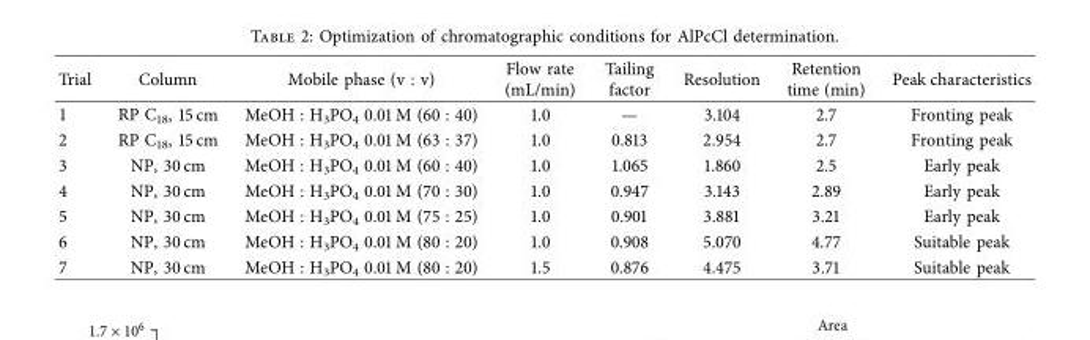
<table><thead><tr><td>Trial</td><td>Column</td><td>Mobile phase (v : v)</td><td>Flow rate (mL/min)</td><td>Tailing factor</td><td>Resolution</td><td>Retention time (min)</td><td>Peak characteristics</td></tr></thead><tbody><tr><td>1</td><td>RP C<sub>18</sub>, 15 cm</td><td>MeOH : H<sub>3</sub>PO<sub>4</sub> 0.01 M (60 : 40)</td><td>1.0</td><td>—</td><td>3.104</td><td>2.7</td><td>Fronting peak</td></tr><tr><td>2</td><td>RP C<sub>18</sub>, 15 cm</td><td>MeOH : H<sub>3</sub>PO<sub>4</sub> 0.01 M (63 : 37)</td><td>1.0</td><td>0.813</td><td>2.954</td><td>2.7</td><td>Fronting peak</td></tr><tr><td>3</td><td>NP, 30 cm</td><td>MeOH : H<sub>3</sub>PO<sub>4</sub> 0.01 M (60 : 40)</td><td>1.0</td><td>1.065</td><td>1.860</td><td>2.5</td><td>Early peak</td></tr><tr><td>4</td><td>NP, 30 cm</td><td>MeOH : H<sub>3</sub>PO<sub>4</sub> 0.01 M (70 : 30)</td><td>1.0</td><td>0.947</td><td>3.143</td><td>2.89</td><td>Early peak</td></tr><tr><td>5</td><td>NP, 30 cm</td><td>MeOH : H<sub>3</sub>PO<sub>4</sub> 0.01 M (75 : 25)</td><td>1.0</td><td>0.901</td><td>3.881</td><td>3.21</td><td>Early peak</td></tr><tr><td>6</td><td>NP, 30 cm</td><td>MeOH : H<sub>3</sub>PO<sub>4</sub> 0.01 M (80 : 20)</td><td>1.0</td><td>0.908</td><td>5.070</td><td>4.77</td><td>Suitable peak</td></tr><tr><td>7</td><td>NP, 30 cm</td><td>MeOH : H<sub>3</sub>PO<sub>4</sub> 0.01 M (80 : 20)</td><td>1.5</td><td>0.876</td><td>4.475</td><td>3.71</td><td>Suitable peak</td></tr></tbody></table>